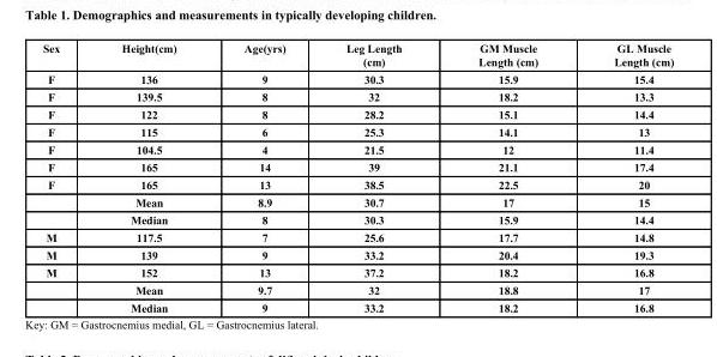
<table><thead><tr><td>Sex</td><td>Height(cm)</td><td>Age(yrs)</td><td>Leg Length (cm)</td><td>GM Muscle Length (cm)</td><td>GL Muscle Length (cm)</td></tr></thead><tbody><tr><td>F</td><td>136</td><td>9</td><td>30.3</td><td>15.9</td><td>15.4</td></tr><tr><td>F</td><td>139.5</td><td>8</td><td>32</td><td>18.2</td><td>13.3</td></tr><tr><td>F</td><td>122</td><td>8</td><td>28.2</td><td>15.1</td><td>14.4</td></tr><tr><td>F</td><td>115</td><td>6</td><td>25.3</td><td>14.1</td><td>13</td></tr><tr><td>F</td><td>104.5</td><td>4</td><td>21.5</td><td>12</td><td>11.4</td></tr><tr><td>F</td><td>165</td><td>14</td><td>39</td><td>21.1</td><td>17.4</td></tr><tr><td rowspan="3">F</td><td>165</td><td>13</td><td>38.5</td><td>22.5</td><td>20</td></tr><tr><td>Mean</td><td>8.9</td><td>30.7</td><td>17</td><td>15</td></tr><tr><td>Median</td><td>8</td><td>30.3</td><td>15.9</td><td>14.4</td></tr><tr><td>M</td><td>117.5</td><td>7</td><td>25.6</td><td>17.7</td><td>14.8</td></tr><tr><td>M</td><td>139</td><td>9</td><td>33.2</td><td>20.4</td><td>19.3</td></tr><tr><td rowspan="3">M</td><td>152</td><td>13</td><td>37.2</td><td>18.2</td><td>16.8</td></tr><tr><td>Mean</td><td>9.7</td><td>32</td><td>18.8</td><td>17</td></tr><tr><td>Median</td><td>9</td><td>33.2</td><td>18.2</td><td>16.8</td></tr></tbody></table>